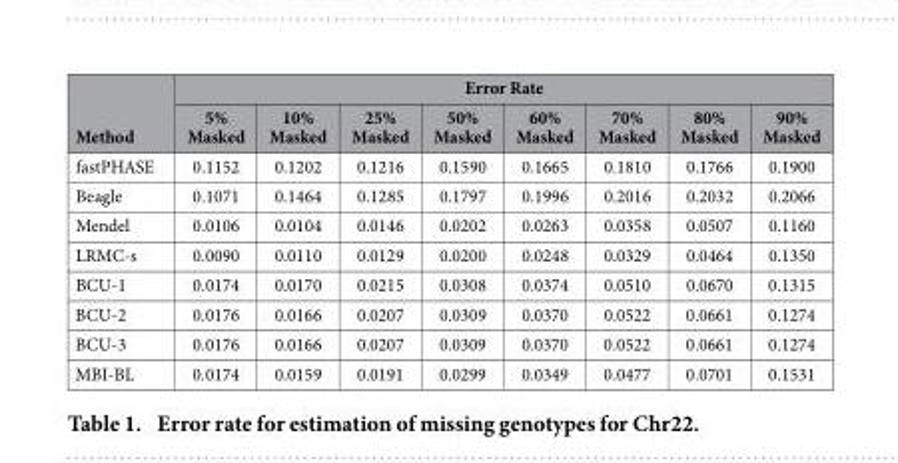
<table><thead><tr><td rowspan="2">Method</td><td colspan="8">Error Rate</td></tr><tr><td>5% Masked</td><td>10% Masked</td><td>25% Masked</td><td>50% Masked</td><td>60% Masked</td><td>70% Masked</td><td>80% Masked</td><td>90% Masked</td></tr></thead><tbody><tr><td>fastPHASE</td><td>0.1152</td><td>0.1202</td><td>0.1216</td><td>0.1590</td><td>0.1665</td><td>0.1810</td><td>0.1766</td><td>0.1900</td></tr><tr><td>Beagle</td><td>0.1071</td><td>0.1464</td><td>0.1285</td><td>0.1797</td><td>0.1996</td><td>0.2016</td><td>0.2032</td><td>0.2066</td></tr><tr><td>Mendel</td><td>0.0106</td><td>0.0104</td><td>0.0146</td><td>0.0202</td><td>0.0263</td><td>0.0358</td><td>0.0507</td><td>0.1160</td></tr><tr><td>LRMC-s</td><td>0.0090</td><td>0.0110</td><td>0.0129</td><td>0.0200</td><td>0.0248</td><td>0.0329</td><td>0.0464</td><td>0.1350</td></tr><tr><td>BCU-1</td><td>0.0174</td><td>0.0170</td><td>0.0215</td><td>0.0308</td><td>0.0374</td><td>0.0510</td><td>0.0670</td><td>0.1315</td></tr><tr><td>BCU-2</td><td>0.0176</td><td>0.0166</td><td>0.0207</td><td>0.0309</td><td>0.0370</td><td>0.0522</td><td>0.0661</td><td>0.1274</td></tr><tr><td>BCU-3</td><td>0.0176</td><td>0.0166</td><td>0.0207</td><td>0.0309</td><td>0.0370</td><td>0.0522</td><td>0.0661</td><td>0.1274</td></tr><tr><td>MBI-BL</td><td>0.0174</td><td>0.0159</td><td>0.0191</td><td>0.0299</td><td>0.0349</td><td>0.0477</td><td>0.0701</td><td>0.1531</td></tr></tbody></table>